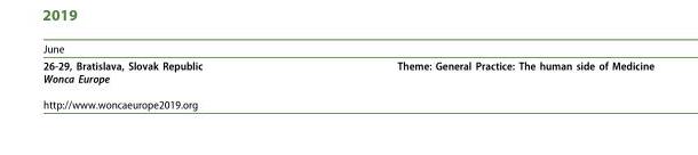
<table><thead><tr><td>June</td><td></td></tr></thead><tbody><tr><td>26-29, Bratislava, Slovak Republic Wonca Europe http://www.woncaeurope2019.org</td><td>Theme: General Practice: The human side of Medicine</td></tr></tbody></table>